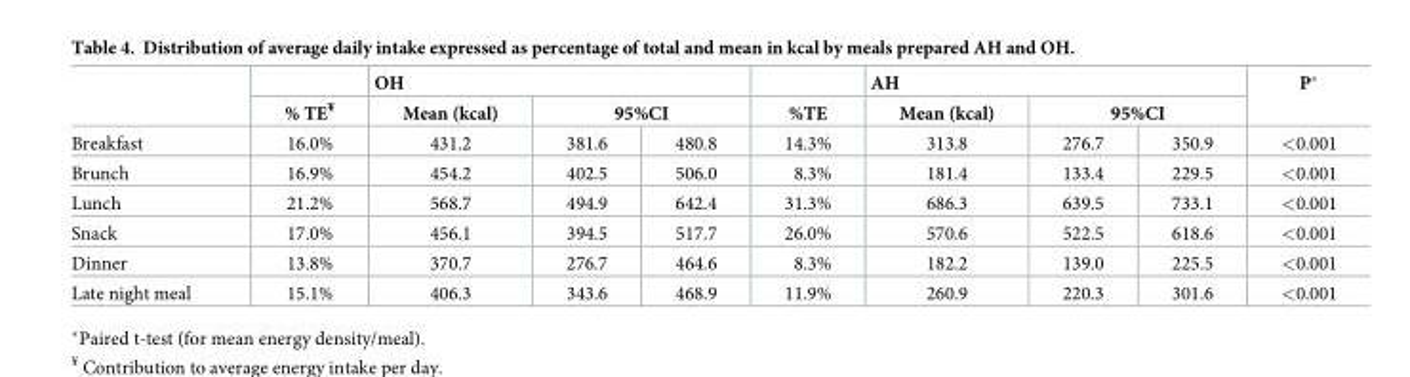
<table><thead><tr><td rowspan="3">Breakfast</td><td rowspan="3">% TE<sup>¥</sup> 16.0%</td><td colspan="3">OH</td><td rowspan="3">%TE 14.3%</td><td colspan="3">AH</td><td rowspan="3">P* &lt;0.001</td></tr><tr><td rowspan="2">Mean (kcal) 431.2</td><td colspan="2">95%CI</td><td rowspan="2">Mean (kcal) 313.8</td><td colspan="2">95%CI</td></tr><tr><td>381.6</td><td>480.8</td><td>276.7</td><td>350.9</td></tr></thead><tbody><tr><td>Brunch</td><td>16.9%</td><td>454.2</td><td>402.5</td><td>506.0</td><td>8.3%</td><td>181.4</td><td>133.4</td><td>229.5</td><td>&lt;0.001</td></tr><tr><td>Lunch</td><td>21.2%</td><td>568.7</td><td>494.9</td><td>642.4</td><td>31.3%</td><td>686.3</td><td>639.5</td><td>733.1</td><td>&lt;0.001</td></tr><tr><td>Snack</td><td>17.0%</td><td>456.1</td><td>394.5</td><td>517.7</td><td>26.0%</td><td>570.6</td><td>522.5</td><td>618.6</td><td>&lt;0.001</td></tr><tr><td>Dinner</td><td>13.8%</td><td>370.7</td><td>276.7</td><td>464.6</td><td>8.3%</td><td>182.2</td><td>139.0</td><td>225.5</td><td>&lt;0.001</td></tr><tr><td>Late night meal</td><td>15.1%</td><td>406.3</td><td>343.6</td><td>468.9</td><td>11.9%</td><td>260.9</td><td>220.3</td><td>301.6</td><td>&lt;0.001</td></tr></tbody></table>